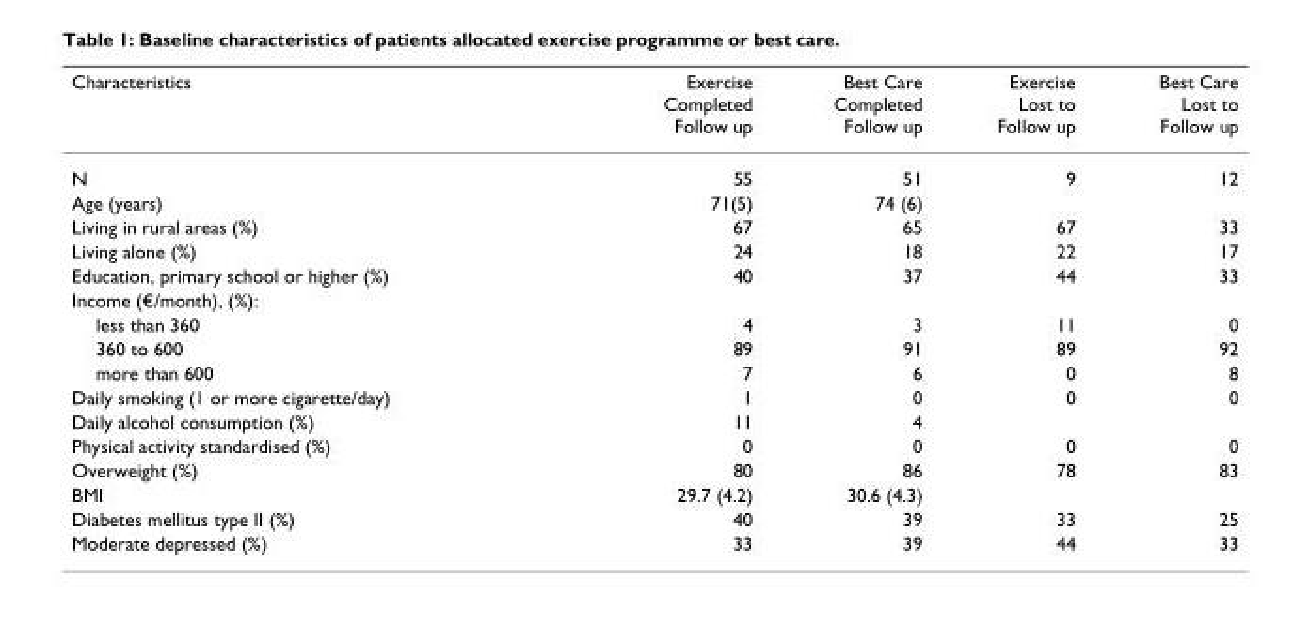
<table><thead><tr><td>Characteristics</td><td>Exercise Completed Follow up</td><td>Best Care Completed Follow up</td><td>Exercise Lost to Follow up</td><td>Best Care Lost to Follow up</td></tr></thead><tbody><tr><td>N</td><td>55</td><td>51</td><td>9</td><td>12</td></tr><tr><td>Age (years)</td><td>71(5)</td><td>74 (6)</td><td></td><td></td></tr><tr><td>Living in rural areas (%)</td><td>67</td><td>65</td><td>67</td><td>33</td></tr><tr><td>Living alone (%)</td><td>24</td><td>18</td><td>22</td><td>17</td></tr><tr><td>Education, primary school or higher (%)</td><td>40</td><td>37</td><td>44</td><td>33</td></tr><tr><td colspan="5">Income (€/month), (%):</td></tr><tr><td>less than 360</td><td>4</td><td>3</td><td>11</td><td>0</td></tr><tr><td>360 to 600</td><td>89</td><td>91</td><td>89</td><td>92</td></tr><tr><td>more than 600</td><td>7</td><td>6</td><td>0</td><td>8</td></tr><tr><td>Daily smoking (1 or more cigarette/day)</td><td>1</td><td>0</td><td>0</td><td>0</td></tr><tr><td>Daily alcohol consumption (%)</td><td>11</td><td>4</td><td></td><td></td></tr><tr><td>Physical activity standardised (%)</td><td>0</td><td>0</td><td>0</td><td>0</td></tr><tr><td>Overweight (%)</td><td>80</td><td>86</td><td>78</td><td>83</td></tr><tr><td>BMI</td><td>29.7 (4.2)</td><td>30.6 (4.3)</td><td></td><td></td></tr><tr><td>Diabetes mellitus type II (%)</td><td>40</td><td>39</td><td>33</td><td>25</td></tr><tr><td>Moderate depressed (%)</td><td>33</td><td>39</td><td>44</td><td>33</td></tr></tbody></table>